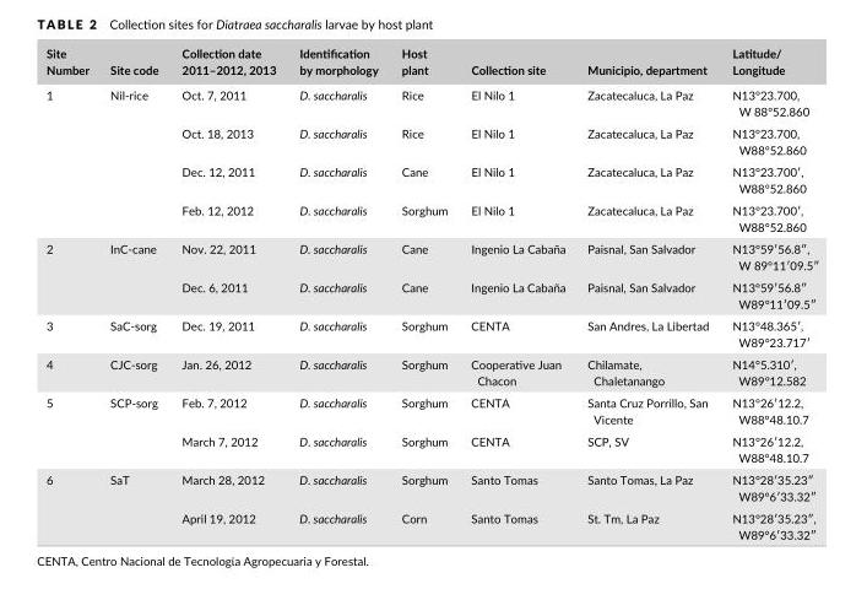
<table><thead><tr><td>Site Number</td><td>Site code</td><td>Collection date 2011–2012, 2013</td><td>Identification by morphology</td><td>Host plant</td><td>Collection site</td><td>Municipio, department</td><td>Latitude/ Longitude</td></tr></thead><tbody><tr><td rowspan="4">1</td><td rowspan="4">Nil- rice</td><td>Oct. 7, 2011</td><td>D. saccharalis</td><td>Rice</td><td>El Nilo 1</td><td>Zacatecaluca, La Paz</td><td>N13°23.700, W 88°52.860</td></tr><tr><td>Oct. 18, 2013</td><td>D. saccharalis</td><td>Rice</td><td>El Nilo 1</td><td>Zacatecaluca, La Paz</td><td>N13°23.700, W88°52.860</td></tr><tr><td>Dec. 12, 2011</td><td>D. saccharalis</td><td>Cane</td><td>El Nilo 1</td><td>Zacatecaluca, La Paz</td><td>N13°23.700′, W88°52.860</td></tr><tr><td>Feb. 12, 2012</td><td>D. saccharalis</td><td>Sorghum</td><td>El Nilo 1</td><td>Zacatecaluca, La Paz</td><td>N13°23.700′, W88°52.860</td></tr><tr><td rowspan="2">2</td><td rowspan="2">InC- cane</td><td>Nov. 22, 2011</td><td>D. saccharalis</td><td>Cane</td><td>Ingenio La Cabaña</td><td>Paisnal, San Salvador</td><td>N13°59′56.8″, W 89°11′09.5″</td></tr><tr><td>Dec. 6, 2011</td><td>D. saccharalis</td><td>Cane</td><td>Ingenio La Cabaña</td><td>Paisnal, San Salvador</td><td>N13°59′56.8″ W89°11′09.5″</td></tr><tr><td>3</td><td>SaC- sorg</td><td>Dec. 19, 2011</td><td>D. saccharalis</td><td>Sorghum</td><td>CENTA</td><td>San Andres, La Libertad</td><td>N13°48.365′, W89°23.717′</td></tr><tr><td>4</td><td>CJC- sorg</td><td>Jan. 26, 2012</td><td>D. saccharalis</td><td>Sorghum</td><td>Cooperative Juan Chacon</td><td>Chilamate, Chaletanango</td><td>N14°5.310′, W89°12.582</td></tr><tr><td rowspan="2">5</td><td rowspan="2">SCP- sorg</td><td>Feb. 7, 2012</td><td>D. saccharalis</td><td>Sorghum</td><td>CENTA</td><td>Santa Cruz Porrillo, San Vicente</td><td>N13°26′12.2, W88°48.10.7</td></tr><tr><td>March 7, 2012</td><td>D. saccharalis</td><td>Sorghum</td><td>CENTA</td><td>SCP, SV</td><td>N13°26′12.2, W88°48.10.7</td></tr><tr><td rowspan="2">6</td><td rowspan="2">SaT</td><td>March 28, 2012</td><td>D. saccharalis</td><td>Sorghum</td><td>Santo Tomas</td><td>Santo Tomas, La Paz</td><td>N13°28′35.23″ W89°6′33.32″</td></tr><tr><td>April 19, 2012</td><td>D. saccharalis</td><td>Corn</td><td>Santo Tomas</td><td>St. Tm, La Paz</td><td>N13°28′35.23″, W89°6′33.32″</td></tr></tbody></table>